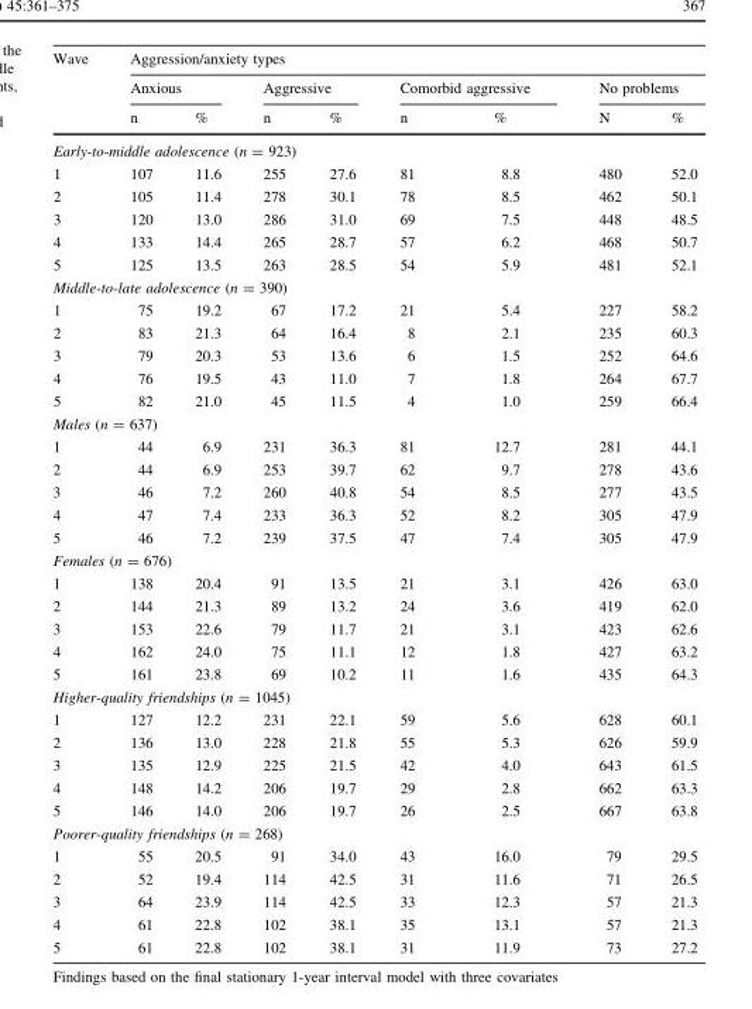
<table><thead><tr><td rowspan="3">Wave</td><td colspan="8">Aggression/anxiety types</td></tr><tr><td colspan="2">Anxious</td><td colspan="2">Aggressive</td><td colspan="2">Comorbid aggressive</td><td colspan="2">No problems</td></tr><tr><td>n</td><td>%</td><td>n</td><td>%</td><td>n</td><td>%</td><td>N</td><td>%</td></tr></thead><tbody><tr><td colspan="9">Early-to-middle adolescence (n = 923)</td></tr><tr><td>1</td><td>107</td><td>11.6</td><td>255</td><td>27.6</td><td>81</td><td>8.8</td><td>480</td><td>52.0</td></tr><tr><td>2</td><td>105</td><td>11.4</td><td>278</td><td>30.1</td><td>78</td><td>8.5</td><td>462</td><td>50.1</td></tr><tr><td>3</td><td>120</td><td>13.0</td><td>286</td><td>31.0</td><td>69</td><td>7.5</td><td>448</td><td>48.5</td></tr><tr><td>4</td><td>133</td><td>14.4</td><td>265</td><td>28.7</td><td>57</td><td>6.2</td><td>468</td><td>50.7</td></tr><tr><td>5</td><td>125</td><td>13.5</td><td>263</td><td>28.5</td><td>54</td><td>5.9</td><td>481</td><td>52.1</td></tr><tr><td colspan="9">Middle-to-late adolescence (n = 390)</td></tr><tr><td>1</td><td>75</td><td>19.2</td><td>67</td><td>17.2</td><td>21</td><td>5.4</td><td>227</td><td>58.2</td></tr><tr><td>2</td><td>83</td><td>21.3</td><td>64</td><td>16.4</td><td>8</td><td>2.1</td><td>235</td><td>60.3</td></tr><tr><td>3</td><td>79</td><td>20.3</td><td>53</td><td>13.6</td><td>6</td><td>1.5</td><td>252</td><td>64.6</td></tr><tr><td>4</td><td>76</td><td>19.5</td><td>43</td><td>11.0</td><td>7</td><td>1.8</td><td>264</td><td>67.7</td></tr><tr><td>5</td><td>82</td><td>21.0</td><td>45</td><td>11.5</td><td>4</td><td>1.0</td><td>259</td><td>66.4</td></tr><tr><td colspan="9">Males (n = 637)</td></tr><tr><td>1</td><td>44</td><td>6.9</td><td>231</td><td>36.3</td><td>81</td><td>12.7</td><td>281</td><td>44.1</td></tr><tr><td>2</td><td>44</td><td>6.9</td><td>253</td><td>39.7</td><td>62</td><td>9.7</td><td>278</td><td>43.6</td></tr><tr><td>3</td><td>46</td><td>7.2</td><td>260</td><td>40.8</td><td>54</td><td>8.5</td><td>277</td><td>43.5</td></tr><tr><td>4</td><td>47</td><td>7.4</td><td>233</td><td>36.3</td><td>52</td><td>8.2</td><td>305</td><td>47.9</td></tr><tr><td>5</td><td>46</td><td>7.2</td><td>239</td><td>37.5</td><td>47</td><td>7.4</td><td>305</td><td>47.9</td></tr><tr><td colspan="9">Females (n = 676)</td></tr><tr><td>1</td><td>138</td><td>20.4</td><td>91</td><td>13.5</td><td>21</td><td>3.1</td><td>426</td><td>63.0</td></tr><tr><td>2</td><td>144</td><td>21.3</td><td>89</td><td>13.2</td><td>24</td><td>3.6</td><td>419</td><td>62.0</td></tr><tr><td>3</td><td>153</td><td>22.6</td><td>79</td><td>11.7</td><td>21</td><td>3.1</td><td>423</td><td>62.6</td></tr><tr><td>4</td><td>162</td><td>24.0</td><td>75</td><td>11.1</td><td>12</td><td>1.8</td><td>427</td><td>63.2</td></tr><tr><td>5</td><td>161</td><td>23.8</td><td>69</td><td>10.2</td><td>11</td><td>1.6</td><td>435</td><td>64.3</td></tr><tr><td colspan="9">Higher-quality friendships (n = 1045)</td></tr><tr><td>1</td><td>127</td><td>12.2</td><td>231</td><td>22.1</td><td>59</td><td>5.6</td><td>628</td><td>60.1</td></tr><tr><td>2</td><td>136</td><td>13.0</td><td>228</td><td>21.8</td><td>55</td><td>5.3</td><td>626</td><td>59.9</td></tr><tr><td>3</td><td>135</td><td>12.9</td><td>225</td><td>21.5</td><td>42</td><td>4.0</td><td>643</td><td>61.5</td></tr><tr><td>4</td><td>148</td><td>14.2</td><td>206</td><td>19.7</td><td>29</td><td>2.8</td><td>662</td><td>63.3</td></tr><tr><td>5</td><td>146</td><td>14.0</td><td>206</td><td>19.7</td><td>26</td><td>2.5</td><td>667</td><td>63.8</td></tr><tr><td colspan="9">Poorer-quality friendships (n = 268)</td></tr><tr><td>1</td><td>55</td><td>20.5</td><td>91</td><td>34.0</td><td>43</td><td>16.0</td><td>79</td><td>29.5</td></tr><tr><td>2</td><td>52</td><td>19.4</td><td>114</td><td>42.5</td><td>31</td><td>11.6</td><td>71</td><td>26.5</td></tr><tr><td>3</td><td>64</td><td>23.9</td><td>114</td><td>42.5</td><td>33</td><td>12.3</td><td>57</td><td>21.3</td></tr><tr><td>4</td><td>61</td><td>22.8</td><td>102</td><td>38.1</td><td>35</td><td>13.1</td><td>57</td><td>21.3</td></tr><tr><td>5</td><td>61</td><td>22.8</td><td>102</td><td>38.1</td><td>31</td><td>11.9</td><td>73</td><td>27.2</td></tr></tbody></table>